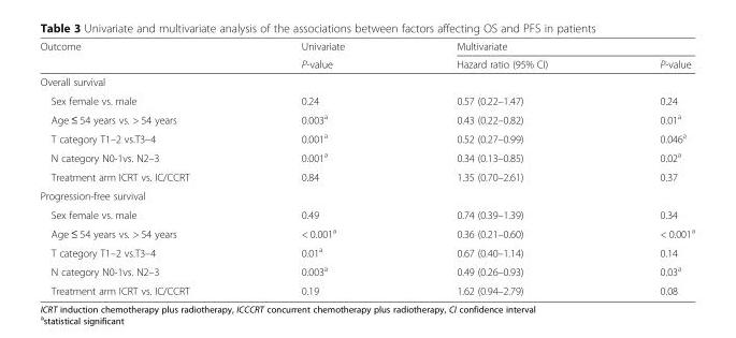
<table><thead><tr><td rowspan="2">Outcome</td><td rowspan="2">Univariate P-value</td><td colspan="2">Multivariate</td></tr><tr><td>Hazard ratio (95% CI)</td><td>P-value</td></tr></thead><tbody><tr><td colspan="4">Overall survival</td></tr><tr><td>Sex female vs. male</td><td>0.24</td><td>0.57 (0.22–1.47)</td><td>0.24</td></tr><tr><td>Age ≤ 54 years vs. &gt; 54 years</td><td>0.003<sup>a</sup></td><td>0.43 (0.22–0.82)</td><td>0.01<sup>a</sup></td></tr><tr><td>T category T1–2 vs.T3–4</td><td>0.001<sup>a</sup></td><td>0.52 (0.27–0.99)</td><td>0.046<sup>a</sup></td></tr><tr><td>N category N0-1vs. N2–3</td><td>0.001<sup>a</sup></td><td>0.34 (0.13–0.85)</td><td>0.02<sup>a</sup></td></tr><tr><td>Treatment arm ICRT vs. IC/CCRT</td><td>0.84</td><td>1.35 (0.70–2.61)</td><td>0.37</td></tr><tr><td colspan="4">Progression-free survival</td></tr><tr><td>Sex female vs. male</td><td>0.49</td><td>0.74 (0.39–1.39)</td><td>0.34</td></tr><tr><td>Age ≤ 54 years vs. &gt; 54 years</td><td>&lt; 0.001<sup>a</sup></td><td>0.36 (0.21–0.60)</td><td>&lt; 0.001<sup>a</sup></td></tr><tr><td>T category T1–2 vs.T3–4</td><td>0.01<sup>a</sup></td><td>0.67 (0.40–1.14)</td><td>0.14</td></tr><tr><td>N category N0-1vs. N2–3</td><td>0.003<sup>a</sup></td><td>0.49 (0.26–0.93)</td><td>0.03<sup>a</sup></td></tr><tr><td>Treatment arm ICRT vs. IC/CCRT</td><td>0.19</td><td>1.62 (0.94–2.79)</td><td>0.08</td></tr></tbody></table>